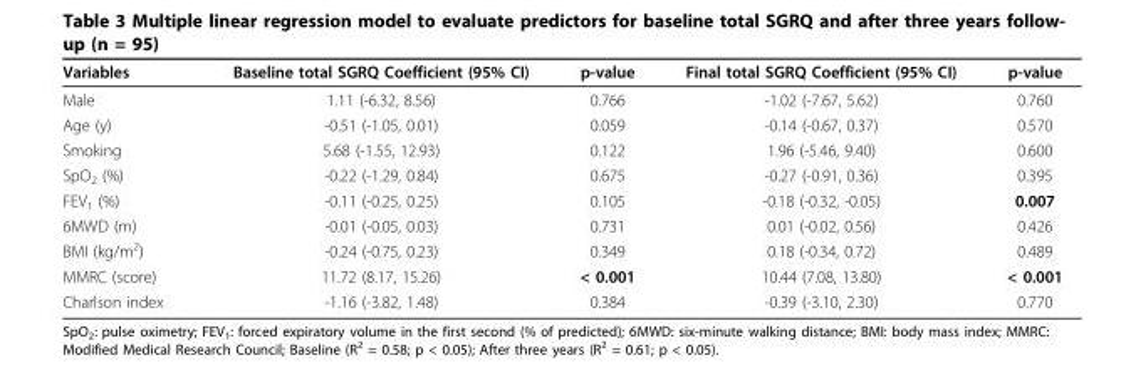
<table><thead><tr><td>Variables</td><td>Baseline total SGRQ Coefficient (95% CI)</td><td>p-value</td><td>Final total SGRQ Coefficient (95% CI)</td><td>p-value</td></tr></thead><tbody><tr><td>Male</td><td>1.11 (-6.32, 8.56)</td><td>0.766</td><td>-1.02 (-7.67, 5.62)</td><td>0.760</td></tr><tr><td>Age (y)</td><td>-0.51 (-1.05, 0.01)</td><td>0.059</td><td>-0.14 (-0.67, 0.37)</td><td>0.570</td></tr><tr><td>Smoking</td><td>5.68 (-1.55, 12.93)</td><td>0.122</td><td>1.96 (-5.46, 9.40)</td><td>0.600</td></tr><tr><td>SpO<sub>2</sub> (%)</td><td>-0.22 (-1.29, 0.84)</td><td>0.675</td><td>-0.27 (-0.91, 0.36)</td><td>0.395</td></tr><tr><td>FEV<sub>1</sub> (%)</td><td>-0.11 (-0.25, 0.25)</td><td>0.105</td><td>-0.18 (-0.32, -0.05)</td><td>0.007</td></tr><tr><td>6MWD (m)</td><td>-0.01 (-0.05, 0.03)</td><td>0.731</td><td>0.01 (-0.02, 0.56)</td><td>0.426</td></tr><tr><td>BMI (kg/m<sup>2</sup>)</td><td>-0.24 (-0.75, 0.23)</td><td>0.349</td><td>0.18 (-0.34, 0.72)</td><td>0.489</td></tr><tr><td>MMRC (score)</td><td>11.72 (8.17, 15.26)</td><td>&lt; 0.001</td><td>10.44 (7.08, 13.80)</td><td>&lt; 0.001</td></tr><tr><td>Charlson index</td><td>-1.16 (-3.82, 1.48)</td><td>0.384</td><td>-0.39 (-3.10, 2.30)</td><td>0.770</td></tr></tbody></table>